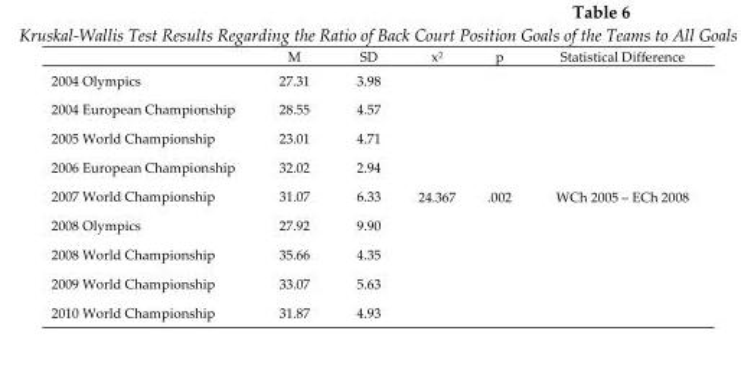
<table><thead><tr><td></td><td>M</td><td>SD</td><td>x<sup>2</sup></td><td>p</td><td>Statistical Difference</td></tr></thead><tbody><tr><td>2004 Olympics</td><td>27.31</td><td>3.98</td><td rowspan="9">24.367</td><td rowspan="9">.002</td><td rowspan="9">WCh 2005 – ECh 2008</td></tr><tr><td>2004 European Championship</td><td>28.55</td><td>4.57</td></tr><tr><td>2005 World Championship</td><td>23.01</td><td>4.71</td></tr><tr><td>2006 European Championship</td><td>32.02</td><td>2.94</td></tr><tr><td>2007 World Championship</td><td>31.07</td><td>6.33</td></tr><tr><td>2008 Olympics</td><td>27.92</td><td>9.90</td></tr><tr><td>2008 World Championship</td><td>35.66</td><td>4.35</td></tr><tr><td>2009 World Championship</td><td>33.07</td><td>5.63</td></tr><tr><td>2010 World Championship</td><td>31.87</td><td>4.93</td></tr></tbody></table>